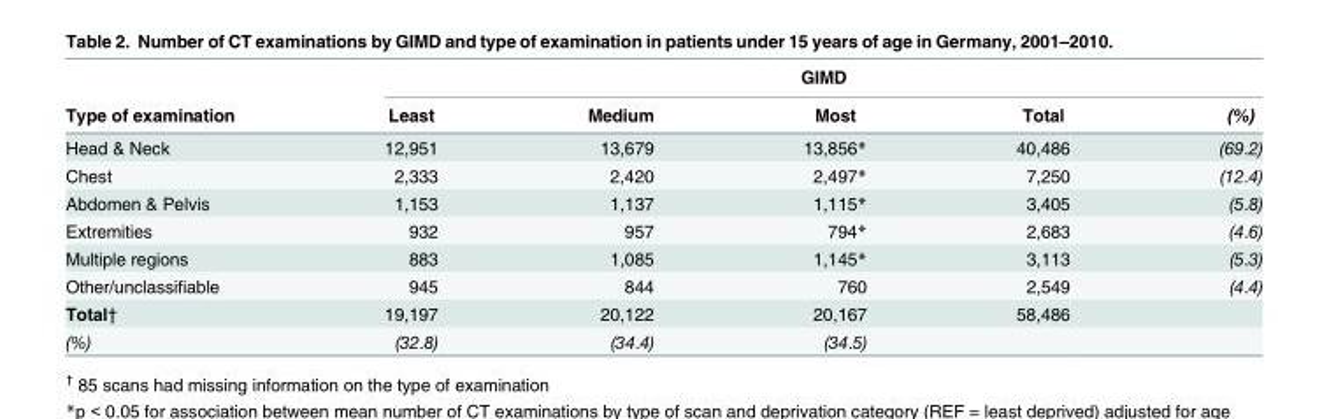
<table><thead><tr><td rowspan="2">Type of examination</td><td colspan="5">GIMD</td></tr><tr><td>Least</td><td>Medium</td><td>Most</td><td>Total</td><td>(%)</td></tr></thead><tbody><tr><td>Head &amp; Neck</td><td>12,951</td><td>13,679</td><td>13,856*</td><td>40,486</td><td>(69.2)</td></tr><tr><td>Chest</td><td>2,333</td><td>2,420</td><td>2,497*</td><td>7,250</td><td>(12.4)</td></tr><tr><td>Abdomen &amp; Pelvis</td><td>1,153</td><td>1,137</td><td>1,115*</td><td>3,405</td><td>(5.8)</td></tr><tr><td>Extremities</td><td>932</td><td>957</td><td>794*</td><td>2,683</td><td>(4.6)</td></tr><tr><td>Multiple regions</td><td>883</td><td>1,085</td><td>1,145*</td><td>3,113</td><td>(5.3)</td></tr><tr><td>Other/unclassifiable</td><td>945</td><td>844</td><td>760</td><td>2,549</td><td>(4.4)</td></tr><tr><td>Total†</td><td>19,197</td><td>20,122</td><td>20,167</td><td>58,486</td><td></td></tr><tr><td>(%)</td><td>(32.8)</td><td>(34.4)</td><td>(34.5)</td><td></td><td></td></tr></tbody></table>